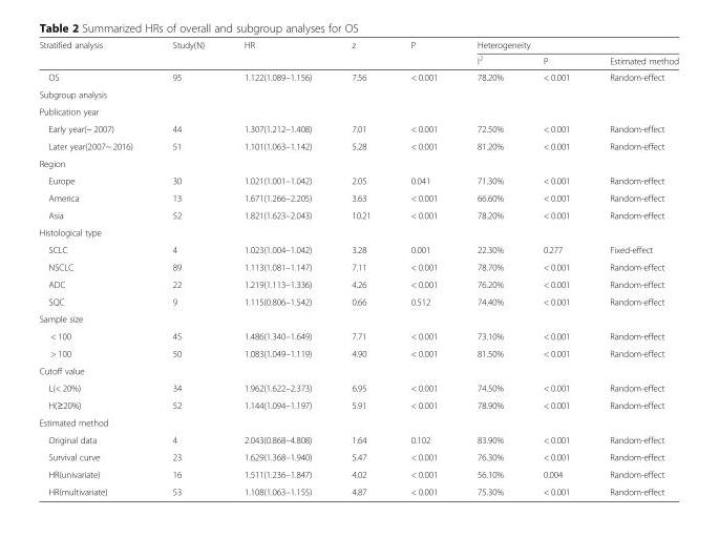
<table><thead><tr><td rowspan="2">Stratified analysis</td><td rowspan="2">Study(N)</td><td rowspan="2">HR</td><td rowspan="2">z</td><td rowspan="2">P</td><td colspan="3">Heterogeneity</td></tr><tr><td>I<sup>2</sup></td><td>P</td><td>Estimated method</td></tr></thead><tbody><tr><td>OS</td><td>95</td><td>1.122(1.089–1.156)</td><td>7.56</td><td>&lt; 0.001</td><td>78.20%</td><td>&lt; 0.001</td><td>Random-effect</td></tr><tr><td colspan="8">Subgroup analysis</td></tr><tr><td colspan="8">Publication year</td></tr><tr><td>Early year(~ 2007)</td><td>44</td><td>1.307(1.212–1.408)</td><td>7.01</td><td>&lt; 0.001</td><td>72.50%</td><td>&lt; 0.001</td><td>Random-effect</td></tr><tr><td>Later year(2007~ 2016)</td><td>51</td><td>1.101(1.063–1.142)</td><td>5.28</td><td>&lt; 0.001</td><td>81.20%</td><td>&lt; 0.001</td><td>Random-effect</td></tr><tr><td colspan="8">Region</td></tr><tr><td>Europe</td><td>30</td><td>1.021(1.001–1.042)</td><td>2.05</td><td>0.041</td><td>71.30%</td><td>&lt; 0.001</td><td>Random-effect</td></tr><tr><td>America</td><td>13</td><td>1.671(1.266–2.205)</td><td>3.63</td><td>&lt; 0.001</td><td>66.60%</td><td>&lt; 0.001</td><td>Random-effect</td></tr><tr><td>Asia</td><td>52</td><td>1.821(1.623–2.043)</td><td>10.21</td><td>&lt; 0.001</td><td>78.20%</td><td>&lt; 0.001</td><td>Random-effect</td></tr><tr><td colspan="8">Histological type</td></tr><tr><td>SCLC</td><td>4</td><td>1.023(1.004–1.042)</td><td>3.28</td><td>0.001</td><td>22.30%</td><td>0.277</td><td>Fixed-effect</td></tr><tr><td>NSCLC</td><td>89</td><td>1.113(1.081–1.147)</td><td>7.11</td><td>&lt; 0.001</td><td>78.70%</td><td>&lt; 0.001</td><td>Random-effect</td></tr><tr><td>ADC</td><td>22</td><td>1.219(1.113–1.336)</td><td>4.26</td><td>&lt; 0.001</td><td>76.20%</td><td>&lt; 0.001</td><td>Random-effect</td></tr><tr><td>SQC</td><td>9</td><td>1.115(0.806–1.542)</td><td>0.66</td><td>0.512</td><td>74.40%</td><td>&lt; 0.001</td><td>Random-effect</td></tr><tr><td colspan="8">Sample size</td></tr><tr><td>&lt; 100</td><td>45</td><td>1.486(1.340–1.649)</td><td>7.71</td><td>&lt; 0.001</td><td>73.10%</td><td>&lt; 0.001</td><td>Random-effect</td></tr><tr><td>&gt; 100</td><td>50</td><td>1.083(1.049–1.119)</td><td>4.90</td><td>&lt; 0.001</td><td>81.50%</td><td>&lt; 0.001</td><td>Random-effect</td></tr><tr><td colspan="8">Cutoff value</td></tr><tr><td>L(&lt; 20%)</td><td>34</td><td>1.962(1.622–2.373)</td><td>6.95</td><td>&lt; 0.001</td><td>74.50%</td><td>&lt; 0.001</td><td>Random-effect</td></tr><tr><td>H(≥20%)</td><td>52</td><td>1.144(1.094–1.197)</td><td>5.91</td><td>&lt; 0.001</td><td>78.90%</td><td>&lt; 0.001</td><td>Random-effect</td></tr><tr><td colspan="8">Estimated method</td></tr><tr><td>Original data</td><td>4</td><td>2.043(0.868–4.808)</td><td>1.64</td><td>0.102</td><td>83.90%</td><td>&lt; 0.001</td><td>Random-effect</td></tr><tr><td>Survival curve</td><td>23</td><td>1.629(1.368–1.940)</td><td>5.47</td><td>&lt; 0.001</td><td>76.30%</td><td>&lt; 0.001</td><td>Random-effect</td></tr><tr><td>HR(univariate)</td><td>16</td><td>1.511(1.236–1.847)</td><td>4.02</td><td>&lt; 0.001</td><td>56.10%</td><td>0.004</td><td>Random-effect</td></tr><tr><td>HR(multivariate)</td><td>53</td><td>1.108(1.063–1.155)</td><td>4.87</td><td>&lt; 0.001</td><td>75.30%</td><td>&lt; 0.001</td><td>Random-effect</td></tr></tbody></table>